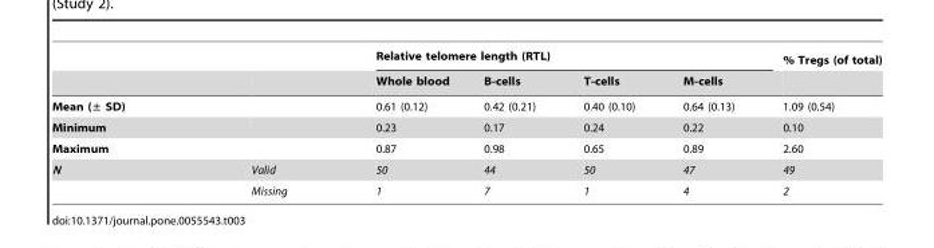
<table><thead><tr><td rowspan="2"></td><td rowspan="2"></td><td colspan="4">Relative telomere length (RTL)</td><td rowspan="2">% Tregs (of total)</td></tr><tr><td>Whole blood</td><td>B-cells</td><td>T-cells</td><td>M-cells</td></tr></thead><tbody><tr><td>Mean (± SD)</td><td></td><td>0.61 (0.12)</td><td>0.42 (0.21)</td><td>0.40 (0.10)</td><td>0.64 (0.13)</td><td>1.09 (0.54)</td></tr><tr><td>Minimum</td><td></td><td>0.23</td><td>0.17</td><td>0.24</td><td>0.22</td><td>0.10</td></tr><tr><td>Maximum</td><td></td><td>0.87</td><td>0.98</td><td>0.65</td><td>0.89</td><td>2.60</td></tr><tr><td rowspan="2">N</td><td>Valid</td><td>50</td><td>44</td><td>50</td><td>47</td><td>49</td></tr><tr><td>Missing</td><td>1</td><td>7</td><td>1</td><td>4</td><td>2</td></tr></tbody></table>